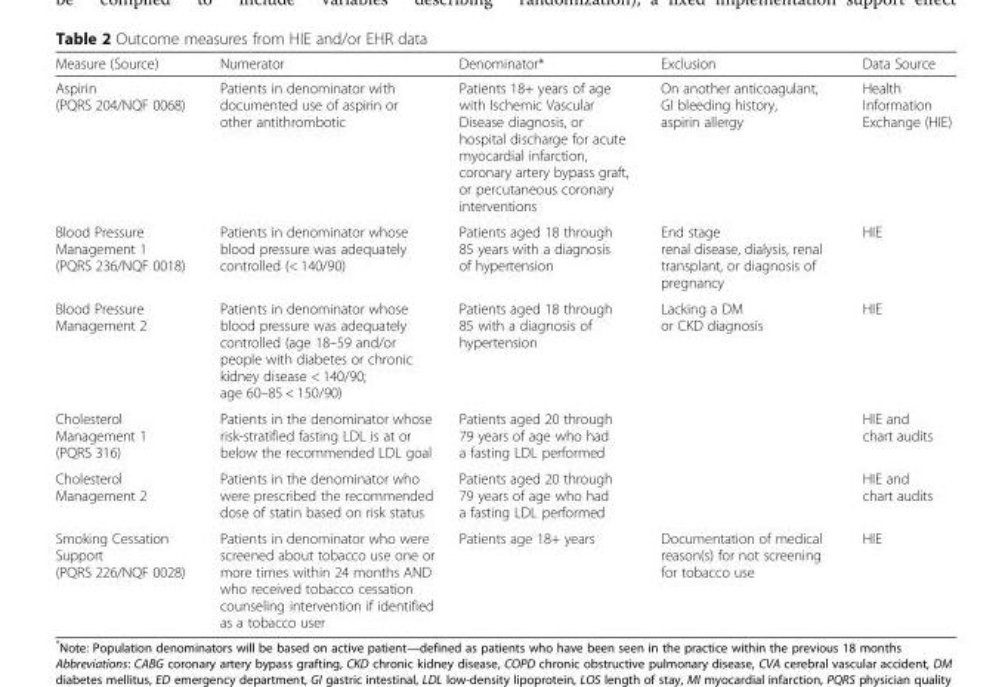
<table><thead><tr><td>Measure (Source)</td><td>Numerator</td><td>Denominator*</td><td>Exclusion</td><td>Data Source</td></tr></thead><tbody><tr><td>Aspirin (PQRS 204/NQF 0068)</td><td>Patients in denominator with documented use of aspirin or other antithrombotic</td><td>Patients 18+ years of age with Ischemic Vascular Disease diagnosis, or hospital discharge for acute myocardial infarction, coronary artery bypass graft, or percutaneous coronary interventions</td><td>On another anticoagulant, GI bleeding history, aspirin allergy</td><td>Health Information Exchange (HIE)</td></tr><tr><td>Blood Pressure Management 1 (PQRS 236/NQF 0018)</td><td>Patients in denominator whose blood pressure was adequately controlled (&lt; 140/90)</td><td>Patients aged 18 through 85 years with a diagnosis of hypertension</td><td>End stage renal disease, dialysis, renal transplant, or diagnosis of pregnancy</td><td>HIE</td></tr><tr><td>Blood Pressure Management 2</td><td>Patients in denominator whose blood pressure was adequately controlled (age 18–59 and/or people with diabetes or chronic kidney disease &lt; 140/90; age 60–85 &lt; 150/90)</td><td>Patients aged 18 through 85 with a diagnosis of hypertension</td><td>Lacking a DM or CKD diagnosis</td><td>HIE</td></tr><tr><td>Cholesterol Management 1 (PQRS 316)</td><td>Patients in the denominator whose risk-stratified fasting LDL is at or below the recommended LDL goal</td><td>Patients aged 20 through 79 years of age who had a fasting LDL performed</td><td></td><td>HIE and chart audits</td></tr><tr><td>Cholesterol Management 2</td><td>Patients in the denominator who were prescribed the recommended dose of statin based on risk status</td><td>Patients aged 20 through 79 years of age who had a fasting LDL performed</td><td></td><td>HIE and chart audits</td></tr><tr><td>Smoking Cessation Support (PQRS 226/NQF 0028)</td><td>Patients in denominator who were screened about tobacco use one or more times within 24 months AND who received tobacco cessation counseling intervention if identified as a tobacco user</td><td>Patients age 18+ years</td><td>Documentation of medical reason(s) for not screening for tobacco use</td><td>HIE</td></tr></tbody></table>